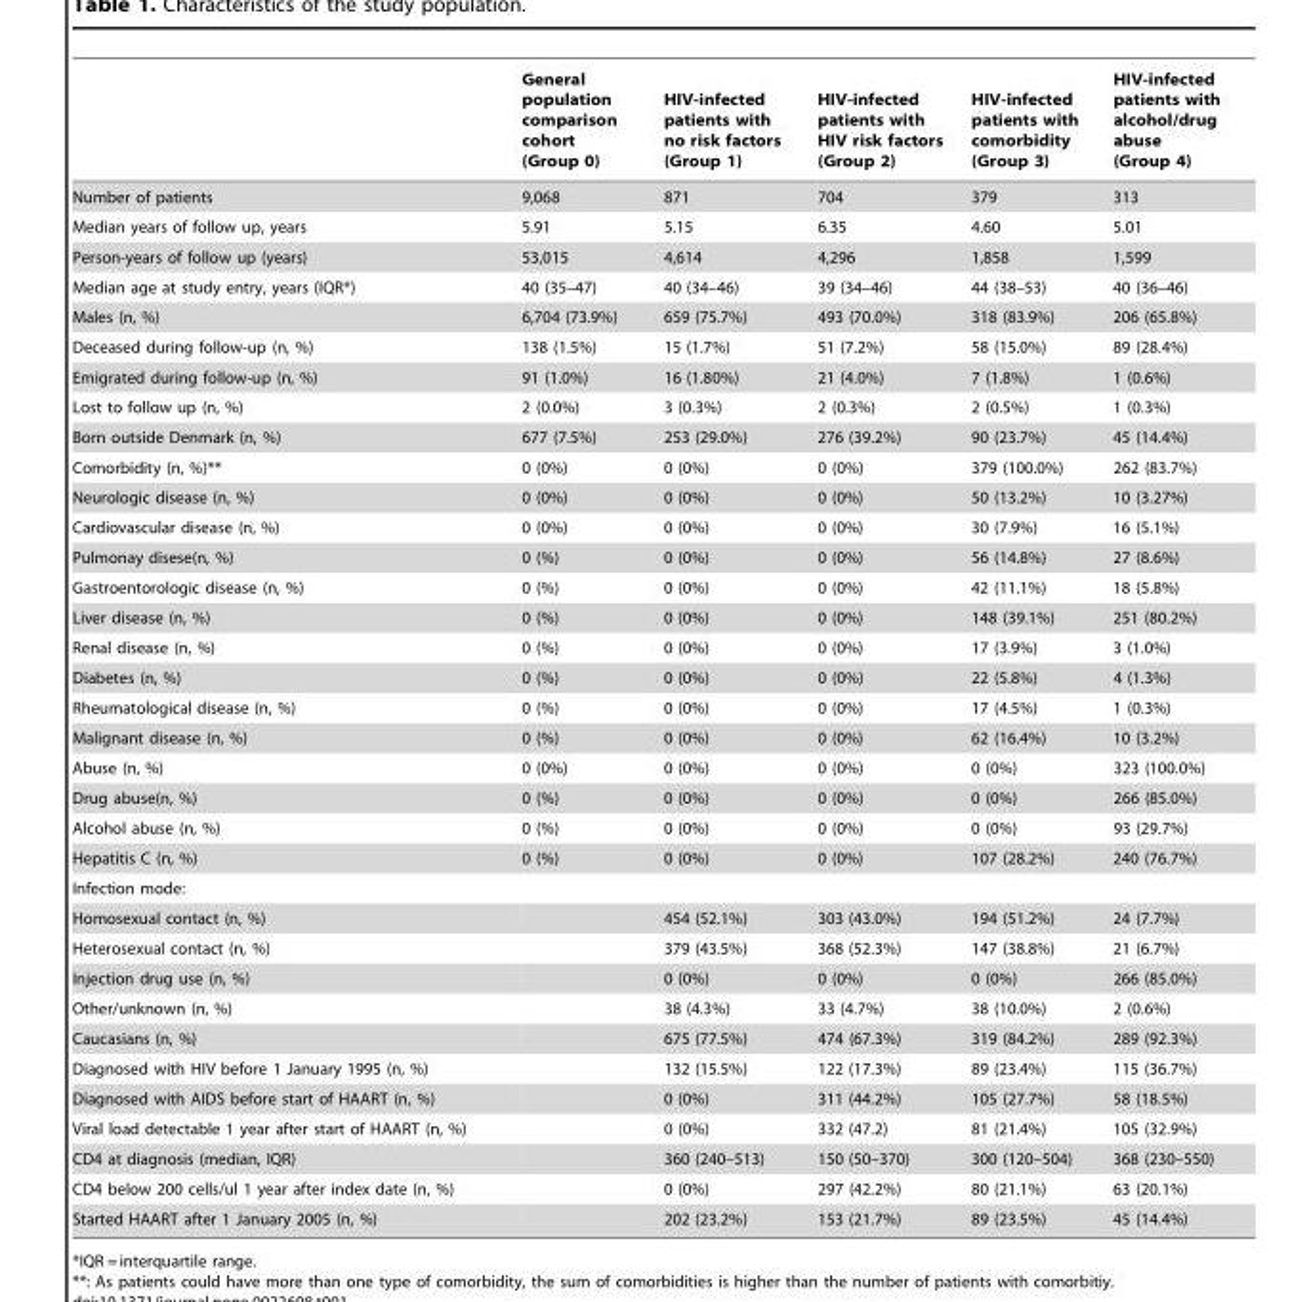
<table><thead><tr><td></td><td>General population comparison cohort (Group 0)</td><td>HIV-infected patients with no risk factors (Group 1)</td><td>HIV-infected patients with HIV risk factors (Group 2)</td><td>HIV-infected patients with comorbidity (Group 3)</td><td>HIV-infected patients with alcohol/drug abuse (Group 4)</td></tr></thead><tbody><tr><td>Number of patients</td><td>9,068</td><td>871</td><td>704</td><td>379</td><td>313</td></tr><tr><td>Median years of follow up, years</td><td>5.91</td><td>5.15</td><td>6.35</td><td>4.60</td><td>5.01</td></tr><tr><td>Person-years of follow up (years)</td><td>53,015</td><td>4,614</td><td>4,296</td><td>1,858</td><td>1,599</td></tr><tr><td>Median age at study entry, years (IQR*)</td><td>40 (35–47)</td><td>40 (34–46)</td><td>39 (34–46)</td><td>44 (38–53)</td><td>40 (36–46)</td></tr><tr><td>Males (n, %)</td><td>6,704 (73.9%)</td><td>659 (75.7%)</td><td>493 (70.0%)</td><td>318 (83.9%)</td><td>206 (65.8%)</td></tr><tr><td>Deceased during follow-up (n, %)</td><td>138 (1.5%)</td><td>15 (1.7%)</td><td>51 (7.2%)</td><td>58 (15.0%)</td><td>89 (28.4%)</td></tr><tr><td>Emigrated during follow-up (n, %)</td><td>91 (1.0%)</td><td>16 (1.80%)</td><td>21 (4.0%)</td><td>7 (1.8%)</td><td>1 (0.6%)</td></tr><tr><td>Lost to follow up (n, %)</td><td>2 (0.0%)</td><td>3 (0.3%)</td><td>2 (0.3%)</td><td>2 (0.5%)</td><td>1 (0.3%)</td></tr><tr><td>Born outside Denmark (n, %)</td><td>677 (7.5%)</td><td>253 (29.0%)</td><td>276 (39.2%)</td><td>90 (23.7%)</td><td>45 (14.4%)</td></tr><tr><td>Comorbidity (n, %)**</td><td>0 (0%)</td><td>0 (0%)</td><td>0 (0%)</td><td>379 (100.0%)</td><td>262 (83.7%)</td></tr><tr><td>Neurologic disease (n, %)</td><td>0 (0%)</td><td>0 (0%)</td><td>0 (0%)</td><td>50 (13.2%)</td><td>10 (3.27%)</td></tr><tr><td>Cardiovascular disease (n, %)</td><td>0 (0%)</td><td>0 (0%)</td><td>0 (0%)</td><td>30 (7.9%)</td><td>16 (5.1%)</td></tr><tr><td>Pulmonay disese(n, %)</td><td>0 (%)</td><td>0 (0%)</td><td>0 (0%)</td><td>56 (14.8%)</td><td>27 (8.6%)</td></tr><tr><td>Gastroentorologic disease (n, %)</td><td>0 (%)</td><td>0 (0%)</td><td>0 (0%)</td><td>42 (11.1%)</td><td>18 (5.8%)</td></tr><tr><td>Liver disease (n, %)</td><td>0 (%)</td><td>0 (0%)</td><td>0 (0%)</td><td>148 (39.1%)</td><td>251 (80.2%)</td></tr><tr><td>Renal disease (n, %)</td><td>0 (%)</td><td>0 (0%)</td><td>0 (0%)</td><td>17 (3.9%)</td><td>3 (1.0%)</td></tr><tr><td>Diabetes (n, %)</td><td>0 (%)</td><td>0 (0%)</td><td>0 (0%)</td><td>22 (5.8%)</td><td>4 (1.3%)</td></tr><tr><td>Rheumatological disease (n, %)</td><td>0 (%)</td><td>0 (0%)</td><td>0 (0%)</td><td>17 (4.5%)</td><td>1 (0.3%)</td></tr><tr><td>Malignant disease (n, %)</td><td>0 (%)</td><td>0 (0%)</td><td>0 (0%)</td><td>62 (16.4%)</td><td>10 (3.2%)</td></tr><tr><td>Abuse (n, %)</td><td>0 (0%)</td><td>0 (0%)</td><td>0 (0%)</td><td>0 (0%)</td><td>323 (100.0%)</td></tr><tr><td>Drug abuse(n, %)</td><td>0 (%)</td><td>0 (0%)</td><td>0 (0%)</td><td>0 (0%)</td><td>266 (85.0%)</td></tr><tr><td>Alcohol abuse (n, %)</td><td>0 (%)</td><td>0 (0%)</td><td>0 (0%)</td><td>0 (0%)</td><td>93 (29.7%)</td></tr><tr><td>Hepatitis C (n, %)</td><td>0 (%)</td><td>0 (0%)</td><td>0 (0%)</td><td>107 (28.2%)</td><td>240 (76.7%)</td></tr><tr><td colspan="6">Infection mode:</td></tr><tr><td>Homosexual contact (n, %)</td><td></td><td>454 (52.1%)</td><td>303 (43.0%)</td><td>194 (51.2%)</td><td>24 (7.7%)</td></tr><tr><td>Heterosexual contact (n, %)</td><td></td><td>379 (43.5%)</td><td>368 (52.3%)</td><td>147 (38.8%)</td><td>21 (6.7%)</td></tr><tr><td>Injection drug use (n, %)</td><td></td><td>0 (0%)</td><td>0 (0%)</td><td>0 (0%)</td><td>266 (85.0%)</td></tr><tr><td>Other/unknown (n, %)</td><td></td><td>38 (4.3%)</td><td>33 (4.7%)</td><td>38 (10.0%)</td><td>2 (0.6%)</td></tr><tr><td>Caucasians (n, %)</td><td></td><td>675 (77.5%)</td><td>474 (67.3%)</td><td>319 (84.2%)</td><td>289 (92.3%)</td></tr><tr><td>Diagnosed with HIV before 1 January 1995 (n, %)</td><td></td><td>132 (15.5%)</td><td>122 (17.3%)</td><td>89 (23.4%)</td><td>115 (36.7%)</td></tr><tr><td>Diagnosed with AIDS before start of HAART (n, %)</td><td></td><td>0 (0%)</td><td>311 (44.2%)</td><td>105 (27.7%)</td><td>58 (18.5%)</td></tr><tr><td>Viral load detectable 1 year after start of HAART (n, %)</td><td></td><td>0 (0%)</td><td>332 (47.2)</td><td>81 (21.4%)</td><td>105 (32.9%)</td></tr><tr><td>CD4 at diagnosis (median, IQR)</td><td></td><td>360 (240–513)</td><td>150 (50–370)</td><td>300 (120–504)</td><td>368 (230–550)</td></tr><tr><td>CD4 below 200 cells/ul 1 year after index date (n, %)</td><td></td><td>0 (0%)</td><td>297 (42.2%)</td><td>80 (21.1%)</td><td>63 (20.1%)</td></tr><tr><td>Started HAART after 1 January 2005 (n, %)</td><td></td><td>202 (23.2%)</td><td>153 (21.7%)</td><td>89 (23.5%)</td><td>45 (14.4%)</td></tr></tbody></table>